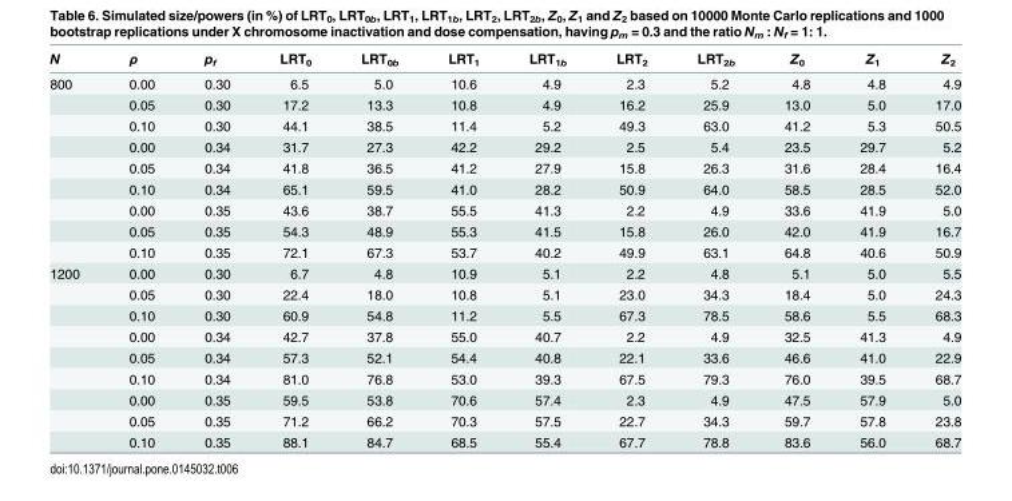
<table><thead><tr><td>N</td><td>ρ</td><td>p<sub>f</sub></td><td>LRT<sub>0</sub></td><td>LRT<sub>0b</sub></td><td>LRT<sub>1</sub></td><td>LRT<sub>1b</sub></td><td>LRT<sub>2</sub></td><td>LRT<sub>2b</sub></td><td>Z<sub>0</sub></td><td>Z<sub>1</sub></td><td>Z<sub>2</sub></td></tr></thead><tbody><tr><td rowspan="9">800</td><td>0.00</td><td>0.30</td><td>6.5</td><td>5.0</td><td>10.6</td><td>4.9</td><td>2.3</td><td>5.2</td><td>4.8</td><td>4.8</td><td>4.9</td></tr><tr><td>0.05</td><td>0.30</td><td>17.2</td><td>13.3</td><td>10.8</td><td>4.9</td><td>16.2</td><td>25.9</td><td>13.0</td><td>5.0</td><td>17.0</td></tr><tr><td>0.10</td><td>0.30</td><td>44.1</td><td>38.5</td><td>11.4</td><td>5.2</td><td>49.3</td><td>63.0</td><td>41.2</td><td>5.3</td><td>50.5</td></tr><tr><td>0.00</td><td>0.34</td><td>31.7</td><td>27.3</td><td>42.2</td><td>29.2</td><td>2.5</td><td>5.4</td><td>23.5</td><td>29.7</td><td>5.2</td></tr><tr><td>0.05</td><td>0.34</td><td>41.8</td><td>36.5</td><td>41.2</td><td>27.9</td><td>15.8</td><td>26.3</td><td>31.6</td><td>28.4</td><td>16.4</td></tr><tr><td>0.10</td><td>0.34</td><td>65.1</td><td>59.5</td><td>41.0</td><td>28.2</td><td>50.9</td><td>64.0</td><td>58.5</td><td>28.5</td><td>52.0</td></tr><tr><td>0.00</td><td>0.35</td><td>43.6</td><td>38.7</td><td>55.5</td><td>41.3</td><td>2.2</td><td>4.9</td><td>33.6</td><td>41.9</td><td>5.0</td></tr><tr><td>0.05</td><td>0.35</td><td>54.3</td><td>48.9</td><td>55.3</td><td>41.5</td><td>15.8</td><td>26.0</td><td>42.0</td><td>41.9</td><td>16.7</td></tr><tr><td>0.10</td><td>0.35</td><td>72.1</td><td>67.3</td><td>53.7</td><td>40.2</td><td>49.9</td><td>63.1</td><td>64.8</td><td>40.6</td><td>50.9</td></tr><tr><td rowspan="9">1200</td><td>0.00</td><td>0.30</td><td>6.7</td><td>4.8</td><td>10.9</td><td>5.1</td><td>2.2</td><td>4.8</td><td>5.1</td><td>5.0</td><td>5.5</td></tr><tr><td>0.05</td><td>0.30</td><td>22.4</td><td>18.0</td><td>10.8</td><td>5.1</td><td>23.0</td><td>34.3</td><td>18.4</td><td>5.0</td><td>24.3</td></tr><tr><td>0.10</td><td>0.30</td><td>60.9</td><td>54.8</td><td>11.2</td><td>5.5</td><td>67.3</td><td>78.5</td><td>58.6</td><td>5.5</td><td>68.3</td></tr><tr><td>0.00</td><td>0.34</td><td>42.7</td><td>37.8</td><td>55.0</td><td>40.7</td><td>2.2</td><td>4.9</td><td>32.5</td><td>41.3</td><td>4.9</td></tr><tr><td>0.05</td><td>0.34</td><td>57.3</td><td>52.1</td><td>54.4</td><td>40.8</td><td>22.1</td><td>33.6</td><td>46.6</td><td>41.0</td><td>22.9</td></tr><tr><td>0.10</td><td>0.34</td><td>81.0</td><td>76.8</td><td>53.0</td><td>39.3</td><td>67.5</td><td>79.3</td><td>76.0</td><td>39.5</td><td>68.7</td></tr><tr><td>0.00</td><td>0.35</td><td>59.5</td><td>53.8</td><td>70.6</td><td>57.4</td><td>2.3</td><td>4.9</td><td>47.5</td><td>57.9</td><td>5.0</td></tr><tr><td>0.05</td><td>0.35</td><td>71.2</td><td>66.2</td><td>70.3</td><td>57.5</td><td>22.7</td><td>34.3</td><td>59.7</td><td>57.8</td><td>23.8</td></tr><tr><td>0.10</td><td>0.35</td><td>88.1</td><td>84.7</td><td>68.5</td><td>55.4</td><td>67.7</td><td>78.8</td><td>83.6</td><td>56.0</td><td>68.7</td></tr></tbody></table>